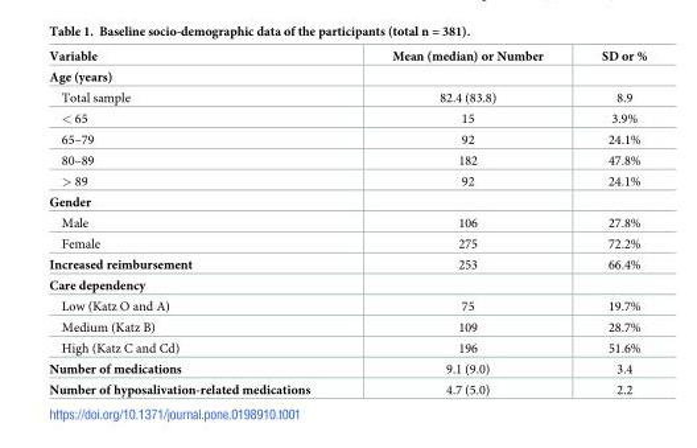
<table><thead><tr><td>Variable</td><td>Mean (median) or Number</td><td>SD or %</td></tr></thead><tbody><tr><td colspan="3">Age (years)</td></tr><tr><td>Total sample</td><td>82.4 (83.8)</td><td>8.9</td></tr><tr><td>&lt; 65</td><td>15</td><td>3.9%</td></tr><tr><td>65–79</td><td>92</td><td>24.1%</td></tr><tr><td>80–89</td><td>182</td><td>47.8%</td></tr><tr><td>&gt; 89</td><td>92</td><td>24.1%</td></tr><tr><td colspan="3">Gender</td></tr><tr><td>Male</td><td>106</td><td>27.8%</td></tr><tr><td>Female</td><td>275</td><td>72.2%</td></tr><tr><td>Increased reimbursement</td><td>253</td><td>66.4%</td></tr><tr><td colspan="3">Care dependency</td></tr><tr><td>Low (Katz O and A)</td><td>75</td><td>19.7%</td></tr><tr><td>Medium (Katz B)</td><td>109</td><td>28.7%</td></tr><tr><td>High (Katz C and Cd)</td><td>196</td><td>51.6%</td></tr><tr><td>Number of medications</td><td>9.1 (9.0)</td><td>3.4</td></tr><tr><td>Number of hyposalivation-related medications</td><td>4.7 (5.0)</td><td>2.2</td></tr></tbody></table>